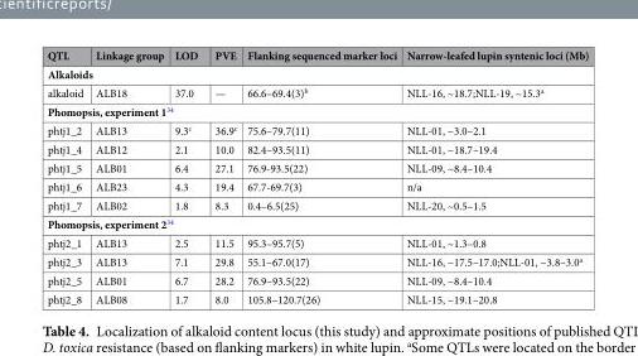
<table><thead><tr><td>QTL</td><td>Linkage group</td><td>LOD</td><td>PVE</td><td>Flanking sequenced marker loci</td><td>Narrow-leafed lupin syntenic loci (Mb)</td></tr></thead><tbody><tr><td colspan="6">Alkaloids</td></tr><tr><td>alkaloid</td><td>ALB18</td><td>37.0</td><td>—</td><td>66.6–69.4(3)<sup>b</sup></td><td>NLL-16, ~18.7;NLL-19, ~15.3<sup>a</sup></td></tr><tr><td colspan="6">Phomopsis, experiment 1<sup>34</sup></td></tr><tr><td>phtj1_2</td><td>ALB13</td><td>9.3<sup>c</sup></td><td>36.9<sup>c</sup></td><td>75.6–79.7(11)</td><td>NLL-01, ~3.0–2.1</td></tr><tr><td>phtj1_4</td><td>ALB12</td><td>2.1</td><td>10.0</td><td>82.4–93.5(11)</td><td>NLL-01, ~18.7–19.4</td></tr><tr><td>phtj1_5</td><td>ALB01</td><td>6.4</td><td>27.1</td><td>76.9-93.5(22)</td><td>NLL-09, ~8.4–10.4</td></tr><tr><td>phtj1_6</td><td>ALB23</td><td>4.3</td><td>19.4</td><td>67.7-69.7(3)</td><td>n/a</td></tr><tr><td>phtj1_7</td><td>ALB02</td><td>1.8</td><td>8.3</td><td>0.4–6.5(25)</td><td>NLL-20, ~0.5–1.5</td></tr><tr><td colspan="6">Phomopsis, experiment 2<sup>34</sup></td></tr><tr><td>phtj2_1</td><td>ALB13</td><td>2.5</td><td>11.5</td><td>95.3–95.7(5)</td><td>NLL-01, ~1.3–0.8</td></tr><tr><td>phtj2_3</td><td>ALB13</td><td>7.1</td><td>29.8</td><td>55.1–67.0(17)</td><td>NLL-16, ~17.5–17.0;NLL-01, ~3.8–3.0<sup>a</sup></td></tr><tr><td>phtj2_5</td><td>ALB01</td><td>6.7</td><td>28.2</td><td>76.9–93.5(22)</td><td>NLL-09, ~8.4–10.4</td></tr><tr><td>phtj2_8</td><td>ALB08</td><td>1.7</td><td>8.0</td><td>105.8–120.7(26)</td><td>NLL-15, ~19.1–20.8</td></tr></tbody></table>